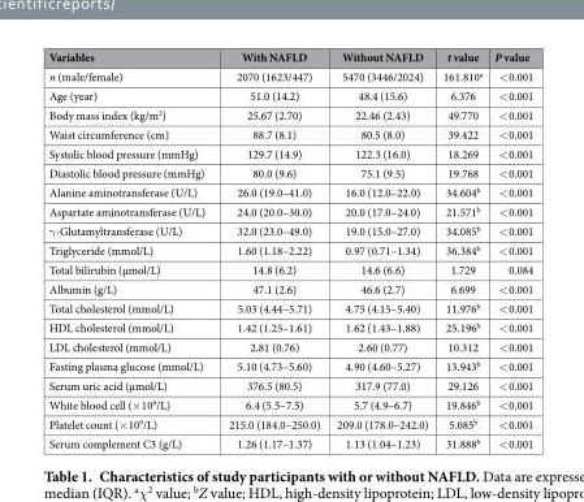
<table><thead><tr><td>Variables</td><td>With NAFLD</td><td>Without NAFLD</td><td>t value</td><td>P value</td></tr></thead><tbody><tr><td>n (male/female)</td><td>2070 (1623/447)</td><td>5470 (3446/2024)</td><td>161.810<sup>a</sup></td><td>&lt; 0.001</td></tr><tr><td>Age (year)</td><td>51.0 (14.2)</td><td>48.4 (15.6)</td><td>6.376</td><td>&lt; 0.001</td></tr><tr><td>Body mass index (kg/m<sup>2</sup>)</td><td>25.67 (2.70)</td><td>22.46 (2.43)</td><td>49.770</td><td>&lt; 0.001</td></tr><tr><td>Waist circumference (cm)</td><td>88.7 (8.1)</td><td>80.5 (8.0)</td><td>39.422</td><td>&lt; 0.001</td></tr><tr><td>Systolic blood pressure (mmHg)</td><td>129.7 (14.9)</td><td>122.3 (16.0)</td><td>18.269</td><td>&lt; 0.001</td></tr><tr><td>Diastolic blood pressure (mmHg)</td><td>80.0 (9.6)</td><td>75.1 (9.5)</td><td>19.768</td><td>&lt; 0.001</td></tr><tr><td>Alanine aminotransferase (U/L)</td><td>26.0 (19.0–41.0)</td><td>16.0 (12.0–22.0)</td><td>34.604<sup>b</sup></td><td>&lt; 0.001</td></tr><tr><td>Aspartate aminotransferase (U/L)</td><td>24.0 (20.0–30.0)</td><td>20.0 (17.0–24.0)</td><td>21.571<sup>b</sup></td><td>&lt; 0.001</td></tr><tr><td>γ -Glutamyltransferase (U/L)</td><td>32.0 (23.0–49.0)</td><td>19.0 (15.0–27.0)</td><td>34.085<sup>b</sup></td><td>&lt; 0.001</td></tr><tr><td>Triglyceride (mmol/L)</td><td>1.60 (1.18–2.22)</td><td>0.97 (0.71–1.34)</td><td>36.384<sup>b</sup></td><td>&lt; 0.001</td></tr><tr><td>Total bilirubin (μmol/L)</td><td>14.8 (6.2)</td><td>14.6 (6.6)</td><td>1.729</td><td>0.084</td></tr><tr><td>Albumin (g/L)</td><td>47.1 (2.6)</td><td>46.6 (2.7)</td><td>6.699</td><td>&lt; 0.001</td></tr><tr><td>Total cholesterol (mmol/L)</td><td>5.03 (4.44–5.71)</td><td>4.75 (4.15–5.40)</td><td>11.976<sup>b</sup></td><td>&lt; 0.001</td></tr><tr><td>HDL cholesterol (mmol/L)</td><td>1.42 (1.25–1.61)</td><td>1.62 (1.43–1.88)</td><td>25.196<sup>b</sup></td><td>&lt; 0.001</td></tr><tr><td>LDL cholesterol (mmol/L)</td><td>2.81 (0.76)</td><td>2.60 (0.77)</td><td>10.312</td><td>&lt; 0.001</td></tr><tr><td>Fasting plasma glucose (mmol/L)</td><td>5.10 (4.73–5.60)</td><td>4.90 (4.60–5.27)</td><td>13.943<sup>b</sup></td><td>&lt; 0.001</td></tr><tr><td>Serum uric acid (μmol/L)</td><td>376.5 (80.5)</td><td>317.9 (77.0)</td><td>29.126</td><td>&lt; 0.001</td></tr><tr><td>White blood cell (× 10<sup>9</sup>/L)</td><td>6.4 (5.5–7.5)</td><td>5.7 (4.9–6.7)</td><td>19.846<sup>b</sup></td><td>&lt; 0.001</td></tr><tr><td>Platelet count (× 10<sup>9</sup>/L)</td><td>215.0 (184.0–250.0)</td><td>209.0 (178.0–242.0)</td><td>5.085<sup>b</sup></td><td>&lt; 0.001</td></tr><tr><td>Serum complement C3 (g/L)</td><td>1.26 (1.17–1.37)</td><td>1.13 (1.04–1.23)</td><td>31.888<sup>b</sup></td><td>&lt; 0.001</td></tr></tbody></table>